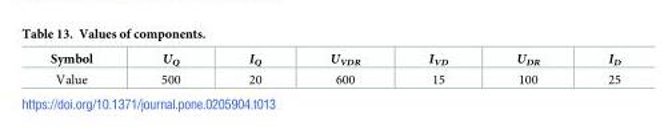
<table><thead><tr><td>Symbol</td><td>U<sub>Q</sub></td><td>I<sub>Q</sub></td><td>U<sub>VDR</sub></td><td>I<sub>VD</sub></td><td>U<sub>DR</sub></td><td>I<sub>D</sub></td></tr></thead><tbody><tr><td>Value</td><td>500</td><td>20</td><td>600</td><td>15</td><td>100</td><td>25</td></tr></tbody></table>